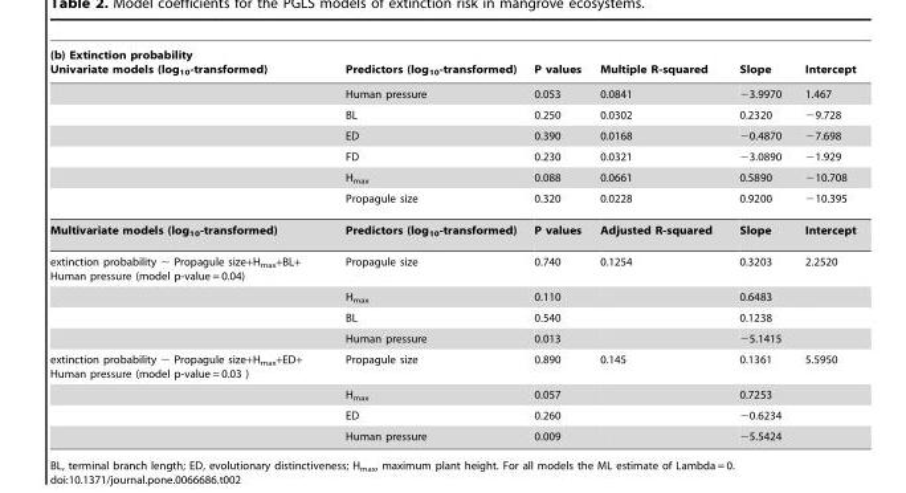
<table><thead><tr><td>(b) Extinction probability Univariate models (log<sub>10</sub>-transformed)</td><td>Predictors (log<sub>10</sub>-transformed)</td><td>P values</td><td>Multiple R-squared</td><td>Slope</td><td>Intercept</td></tr></thead><tbody><tr><td></td><td>Human pressure</td><td>0.053</td><td>0.0841</td><td>−3.9970</td><td>1.467</td></tr><tr><td></td><td>BL</td><td>0.250</td><td>0.0302</td><td>0.2320</td><td>−9.728</td></tr><tr><td></td><td>ED</td><td>0.390</td><td>0.0168</td><td>−0.4870</td><td>−7.698</td></tr><tr><td></td><td>FD</td><td>0.230</td><td>0.0321</td><td>−3.0890</td><td>−1.929</td></tr><tr><td></td><td>H<sub>max</sub></td><td>0.088</td><td>0.0661</td><td>0.5890</td><td>−10.708</td></tr><tr><td></td><td>Propagule size</td><td>0.320</td><td>0.0228</td><td>0.9200</td><td>−10.395</td></tr><tr><td>Multivariate models (log<sub>10</sub>-transformed)</td><td>Predictors (log<sub>10</sub>-transformed)</td><td>P values</td><td>Adjusted R-squared</td><td>Slope</td><td>Intercept</td></tr><tr><td rowspan="4">extinction probability ∼ Propagule size+H<sub>max</sub>+BL+ Human pressure (model p-value = 0.04)</td><td>Propagule size</td><td>0.740</td><td>0.1254</td><td>0.3203</td><td>2.2520</td></tr><tr><td>H<sub>max</sub></td><td>0.110</td><td></td><td>0.6483</td><td></td></tr><tr><td>BL</td><td>0.540</td><td></td><td>0.1238</td><td></td></tr><tr><td>Human pressure</td><td>0.013</td><td></td><td>−5.1415</td><td></td></tr><tr><td rowspan="4">extinction probability ∼ Propagule size+H<sub>max</sub>+ED+ Human pressure (model p-value = 0.03 )</td><td>Propagule size</td><td>0.890</td><td>0.145</td><td>0.1361</td><td>5.5950</td></tr><tr><td>H<sub>max</sub></td><td>0.057</td><td></td><td>0.7253</td><td></td></tr><tr><td>ED</td><td>0.260</td><td></td><td>−0.6234</td><td></td></tr><tr><td>Human pressure</td><td>0.009</td><td></td><td>−5.5424</td><td></td></tr></tbody></table>